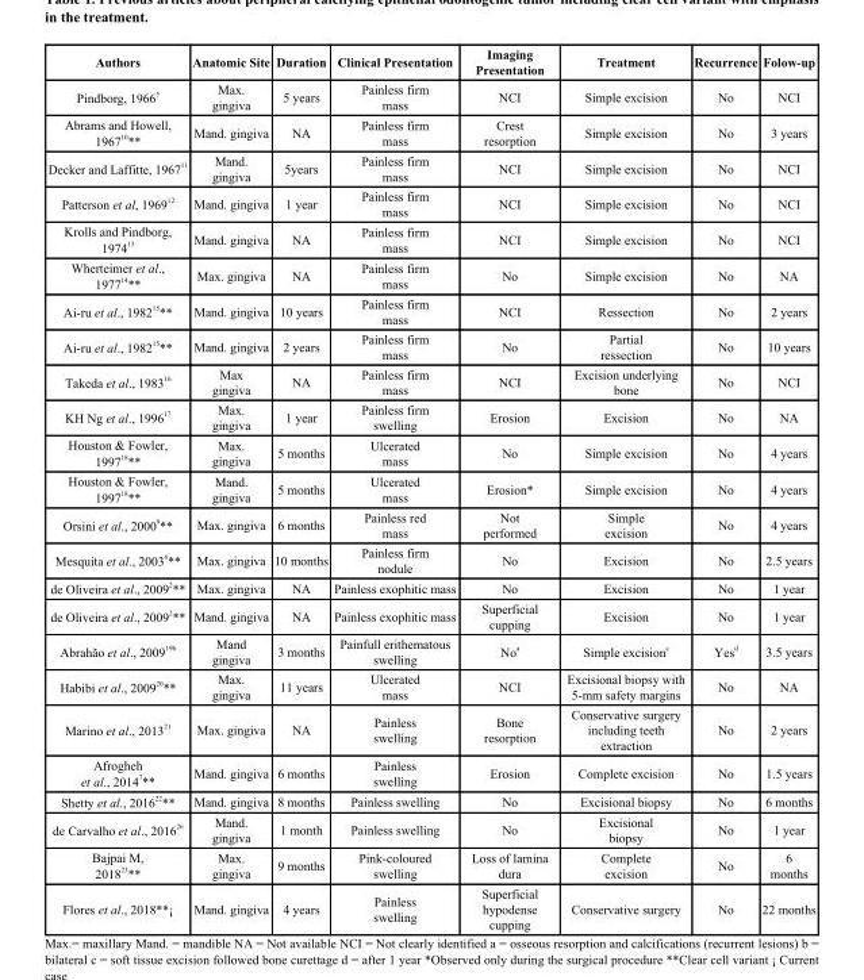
<table><thead><tr><td>Authors</td><td>Anatomic Site</td><td>Duration</td><td>Clinical Presentation</td><td>Imaging Presentation</td><td>Treatment</td><td>Recurrence</td><td>Folow-up</td></tr></thead><tbody><tr><td>Pindborg, 1966 <sup>5</sup></td><td>Max. gingiva</td><td>5 years</td><td>Painless firm mass</td><td>NCI</td><td>Simple excision</td><td>No</td><td>NCI</td></tr><tr><td>Abrams and Howell, 1967 <sup>10</sup>**</td><td>Mand. gingiva</td><td>NA</td><td>Painless firm mass</td><td>Crest resorption</td><td>Simple excision</td><td>No</td><td>3 years</td></tr><tr><td>Decker and Laffitte, 1967 <sup>11</sup></td><td>Mand. gingiva</td><td>5years</td><td>Painless firm mass</td><td>NCI</td><td>Simple excision</td><td>No</td><td>NCI</td></tr><tr><td>Patterson et al, 1969 <sup>12</sup></td><td>Mand. gingiva</td><td>1 year</td><td>Painless firm mass</td><td>NCI</td><td>Simple excision</td><td>No</td><td>NCI</td></tr><tr><td>Krolls and Pindborg, 1974 <sup>13</sup></td><td>Mand. gingiva</td><td>NA</td><td>Painless firm mass</td><td>NCI</td><td>Simple excision</td><td>No</td><td>NCI</td></tr><tr><td>Wherteimer et al., 1977 <sup>14</sup>**</td><td>Max. gingiva</td><td>NA</td><td>Painless firm mass</td><td>No</td><td>Simple excision</td><td>No</td><td>NA</td></tr><tr><td>Ai-ru et al., 1982 <sup>15</sup>**</td><td>Mand. gingiva</td><td>10 years</td><td>Painless firm mass</td><td>NCI</td><td>Ressection</td><td>No</td><td>2 years</td></tr><tr><td>Ai-ru et al., 1982 <sup>15</sup>**</td><td>Mand. gingiva</td><td>2 years</td><td>Painless firm mass</td><td>No</td><td>Partial ressection</td><td>No</td><td>10 years</td></tr><tr><td>Takeda et al., 1983 <sup>16</sup></td><td>Max gingiva</td><td>NA</td><td>Painless firm mass</td><td>NCI</td><td>Excision underlying bone</td><td>No</td><td>NCI</td></tr><tr><td>KH Ng et al., 1996 <sup>17</sup></td><td>Max. gingiva</td><td>1 year</td><td>Painless firm swelling</td><td>Erosion</td><td>Excision</td><td>No</td><td>NA</td></tr><tr><td>Houston &amp; Fowler, 1997 <sup>18</sup>**</td><td>Max. gingiva</td><td>5 months</td><td>Ulcerated mass</td><td>No</td><td>Simple excision</td><td>No</td><td>4 years</td></tr><tr><td>Houston &amp; Fowler, 1997 <sup>18</sup>**</td><td>Mand. gingiva</td><td>5 months</td><td>Ulcerated mass</td><td>Erosion*</td><td>Simple excision</td><td>No</td><td>4 years</td></tr><tr><td>Orsini et al., 2000 <sup>9</sup>**</td><td>Max. gingiva</td><td>6 months</td><td>Painless red mass</td><td>Not performed</td><td>Simple excision</td><td>No</td><td>4 years</td></tr><tr><td>Mesquita et al., 2003 <sup>6</sup>**</td><td>Max. gingiva</td><td>10 months</td><td>Painless firm nodule</td><td>No</td><td>Excision</td><td>No</td><td>2.5 years</td></tr><tr><td>de Oliveira et al., 2009 <sup>2</sup>**</td><td>Max. gingiva</td><td>NA</td><td>Painless exophitic mass</td><td>No</td><td>Excision</td><td>No</td><td>1 year</td></tr><tr><td>de Oliveira et al., 2009 <sup>2</sup>**</td><td>Mand. gingiva</td><td>NA</td><td>Painless exophitic mass</td><td>Superficial cupping</td><td>Excision</td><td>No</td><td>1 year</td></tr><tr><td>Abrahão et al., 2009 <sup>19b</sup></td><td>Mand gingiva</td><td>3 months</td><td>Painfull erithematous swelling</td><td>No <sup>a</sup></td><td>Simple excision <sup>c</sup></td><td>Yes <sup>d</sup></td><td>3.5 years</td></tr><tr><td>Habibi et al., 2009 <sup>20</sup>**</td><td>Max. gingiva</td><td>11 years</td><td>Ulcerated mass</td><td>NCI</td><td>Excisional biopsy with 5-mm safety margins</td><td>No</td><td>NA</td></tr><tr><td>Marino et al., 2013 <sup>21</sup></td><td>Max. gingiva</td><td>NA</td><td>Painless swelling</td><td>Bone resorption</td><td>Conservative surgery including teeth extraction</td><td>No</td><td>2 years</td></tr><tr><td>Afrogheh et al., 2014 <sup>7</sup>**</td><td>Mand. gingiva</td><td>6 months</td><td>Painless swelling</td><td>Erosion</td><td>Complete excision</td><td>No</td><td>1.5 years</td></tr><tr><td>Shetty et al., 2016 <sup>22</sup>**</td><td>Mand. gingiva</td><td>8 months</td><td>Painless swelling</td><td>No</td><td>Excisional biopsy</td><td>No</td><td>6 months</td></tr><tr><td>de Carvalho et al., 2016 <sup>26</sup></td><td>Mand. gingiva</td><td>1 month</td><td>Painless swelling</td><td>No</td><td>Excisional biopsy</td><td>No</td><td>1 year</td></tr><tr><td>Bajpai M, 2018 <sup>23</sup>**</td><td>Max. gingiva</td><td>9 months</td><td>Pink-coloured swelling</td><td>Loss of lamina dura</td><td>Complete excision</td><td>No</td><td>6 months</td></tr><tr><td>Flores et al., 2018**¡</td><td>Mand. gingiva</td><td>4 years</td><td>Painless swelling</td><td>Superficial hypodense cupping</td><td>Conservative surgery</td><td>No</td><td>22 months</td></tr></tbody></table>